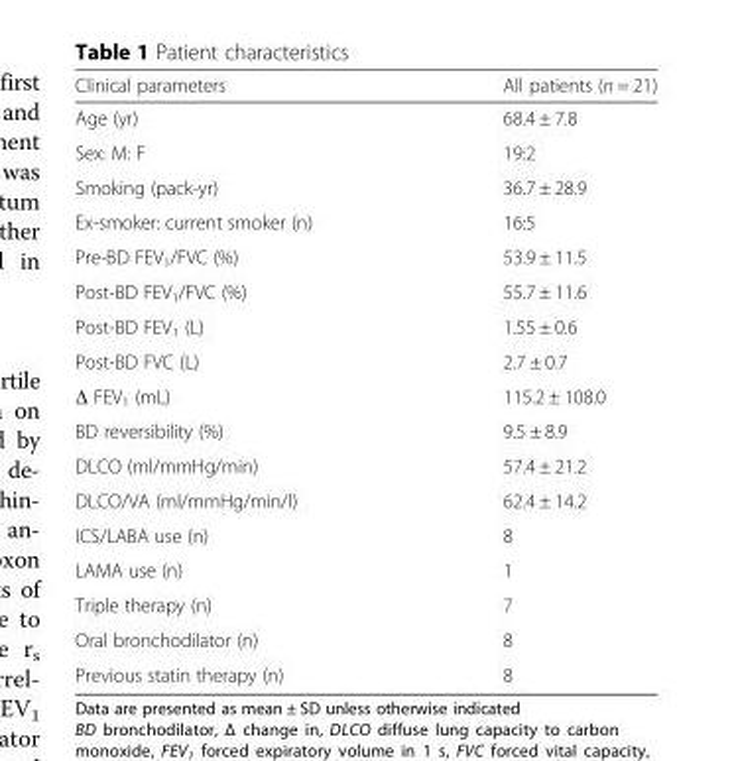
<table><thead><tr><td>Clinical parameters</td><td>All patients (n = 21)</td></tr></thead><tbody><tr><td>Age (yr)</td><td>68.4 ± 7.8</td></tr><tr><td>Sex: M: F</td><td>19:2</td></tr><tr><td>Smoking (pack-yr)</td><td>36.7 ± 28.9</td></tr><tr><td>Ex-smoker: current smoker (n)</td><td>16:5</td></tr><tr><td>Pre-BD FEV<sub>1</sub>/FVC (%)</td><td>53.9 ± 11.5</td></tr><tr><td>Post-BD FEV<sub>1</sub>/FVC (%)</td><td>55.7 ± 11.6</td></tr><tr><td>Post-BD FEV<sub>1</sub> (L)</td><td>1.55 ± 0.6</td></tr><tr><td>Post-BD FVC (L)</td><td>2.7 ± 0.7</td></tr><tr><td>Δ FEV<sub>1</sub> (mL)</td><td>115.2 ± 108.0</td></tr><tr><td>BD reversibility (%)</td><td>9.5 ± 8.9</td></tr><tr><td>DLCO (ml/mmHg/min)</td><td>57.4 ± 21.2</td></tr><tr><td>DLCO/VA (ml/mmHg/min/l)</td><td>62.4 ± 14.2</td></tr><tr><td>ICS/LABA use (n)</td><td>8</td></tr><tr><td>LAMA use (n)</td><td>1</td></tr><tr><td>Triple therapy (n)</td><td>7</td></tr><tr><td>Oral bronchodilator (n)</td><td>8</td></tr><tr><td>Previous statin therapy (n)</td><td>8</td></tr></tbody></table>